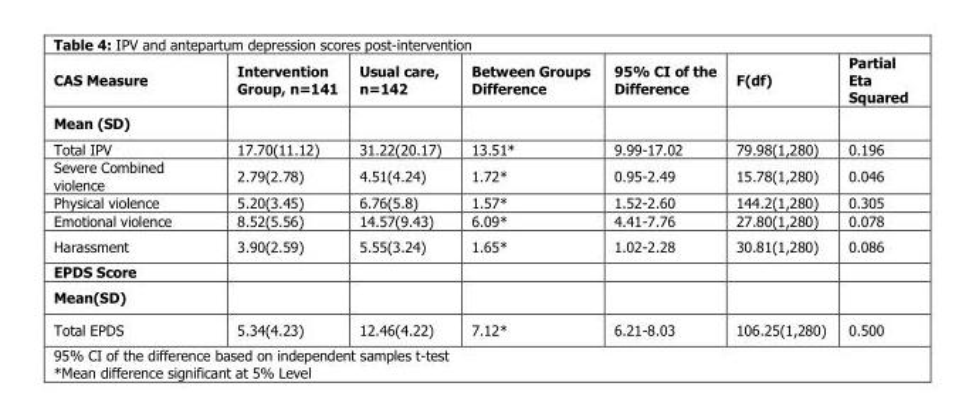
<table><thead><tr><td>CAS Measure</td><td>Intervention Group, n=141</td><td>Usual care, n=142</td><td>Between Groups Difference</td><td>95% CI of the Difference</td><td>F(df)</td><td>Partial Eta Squared</td></tr></thead><tbody><tr><td colspan="7">Mean (SD)</td></tr><tr><td>Total IPV</td><td>17.70(11.12)</td><td>31.22(20.17)</td><td>13.51*</td><td>9.99-17.02</td><td>79.98(1,280)</td><td>0.196</td></tr><tr><td>Severe Combined violence</td><td>2.79(2.78)</td><td>4.51(4.24)</td><td>1.72*</td><td>0.95-2.49</td><td>15.78(1,280)</td><td>0.046</td></tr><tr><td>Physical violence</td><td>5.20(3.45)</td><td>6.76(5.8)</td><td>1.57*</td><td>1.52-2.60</td><td>144.2(1,280)</td><td>0.305</td></tr><tr><td>Emotional violence</td><td>8.52(5.56)</td><td>14.57(9.43)</td><td>6.09*</td><td>4.41-7.76</td><td>27.80(1,280)</td><td>0.078</td></tr><tr><td>Harassment</td><td>3.90(2.59)</td><td>5.55(3.24)</td><td>1.65*</td><td>1.02-2.28</td><td>30.81(1,280)</td><td>0.086</td></tr><tr><td colspan="7">EPDS Score</td></tr><tr><td colspan="7">Mean(SD)</td></tr><tr><td>Total EPDS</td><td>5.34(4.23)</td><td>12.46(4.22)</td><td>7.12*</td><td>6.21-8.03</td><td>106.25(1,280)</td><td>0.500</td></tr></tbody></table>